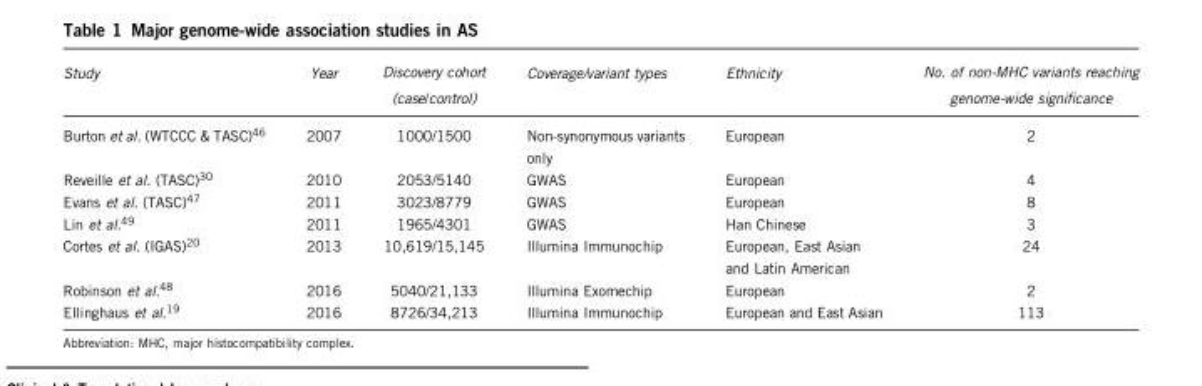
<table><thead><tr><td>Study</td><td>Year</td><td>Discovery cohort (case/control)</td><td>Coverage/variant types</td><td>Ethnicity</td><td>No. of non-MHC variants reaching genome-wide significance</td></tr></thead><tbody><tr><td>Burton et al. (WTCCC &amp; TASC)<sup>46</sup></td><td>2007</td><td>1000/1500</td><td>Non-synonymous variants only</td><td>European</td><td>2</td></tr><tr><td>Reveille et al. (TASC)<sup>30</sup></td><td>2010</td><td>2053/5140</td><td>GWAS</td><td>European</td><td>4</td></tr><tr><td>Evans et al. (TASC)<sup>47</sup></td><td>2011</td><td>3023/8779</td><td>GWAS</td><td>European</td><td>8</td></tr><tr><td>Lin et al.<sup>49</sup></td><td>2011</td><td>1965/4301</td><td>GWAS</td><td>Han Chinese</td><td>3</td></tr><tr><td>Cortes et al. (IGAS)<sup>20</sup></td><td>2013</td><td>10,619/15,145</td><td>Illumina Immunochip</td><td>European, East Asian and Latin American</td><td>24</td></tr><tr><td>Robinson et al.<sup>48</sup></td><td>2016</td><td>5040/21,133</td><td>Illumina Exomechip</td><td>European</td><td>2</td></tr><tr><td>Ellinghaus et al.<sup>19</sup></td><td>2016</td><td>8726/34,213</td><td>Illumina Immunochip</td><td>European and East Asian</td><td>113</td></tr></tbody></table>